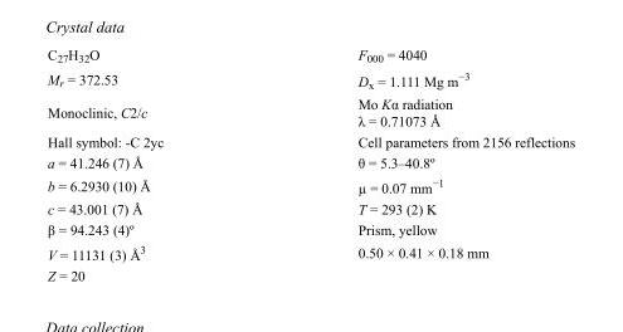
<table><tbody><tr><td>C<sub>27</sub>H<sub>32</sub>O</td><td>F<sub>000</sub> = 4040</td></tr><tr><td>M<sub>r</sub> = 372.53</td><td>D<sub>x</sub> = 1.111 Mg m<sup>−3</sup></td></tr><tr><td>Monoclinic, C2/c</td><td>Mo Kα radiation λ = 0.71073 Å</td></tr><tr><td>Hall symbol: -C 2yc</td><td>Cell parameters from 2156 reflections</td></tr><tr><td>a = 41.246 (7) Å</td><td>θ = 5.3–40.8º</td></tr><tr><td>b = 6.2930 (10) Å</td><td>µ = 0.07 mm<sup>−1</sup></td></tr><tr><td>c = 43.001 (7) Å</td><td>T = 293 (2) K</td></tr><tr><td>β = 94.243 (4)º</td><td>Prism, yellow</td></tr><tr><td>V = 11131 (3) Å<sup>3</sup></td><td>0.50 × 0.41 × 0.18 mm</td></tr><tr><td>Z = 20</td><td></td></tr></tbody></table>